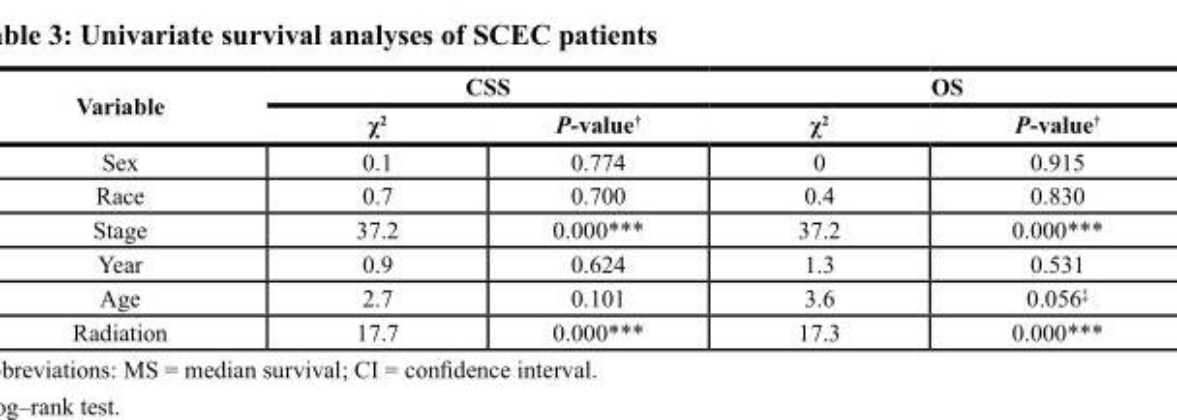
<table><thead><tr><td rowspan="2">Variable</td><td colspan="2">CSS</td><td colspan="2">OS</td></tr><tr><td>χ<sup>2</sup></td><td>P-value<sup>†</sup></td><td>χ<sup>2</sup></td><td>P-value<sup>†</sup></td></tr></thead><tbody><tr><td>Sex</td><td>0.1</td><td>0.774</td><td>0</td><td>0.915</td></tr><tr><td>Race</td><td>0.7</td><td>0.700</td><td>0.4</td><td>0.830</td></tr><tr><td>Stage</td><td>37.2</td><td>0.000***</td><td>37.2</td><td>0.000***</td></tr><tr><td>Year</td><td>0.9</td><td>0.624</td><td>1.3</td><td>0.531</td></tr><tr><td>Age</td><td>2.7</td><td>0.101</td><td>3.6</td><td>0.056<sup>‡</sup></td></tr><tr><td>Radiation</td><td>17.7</td><td>0.000***</td><td>17.3</td><td>0.000***</td></tr></tbody></table>